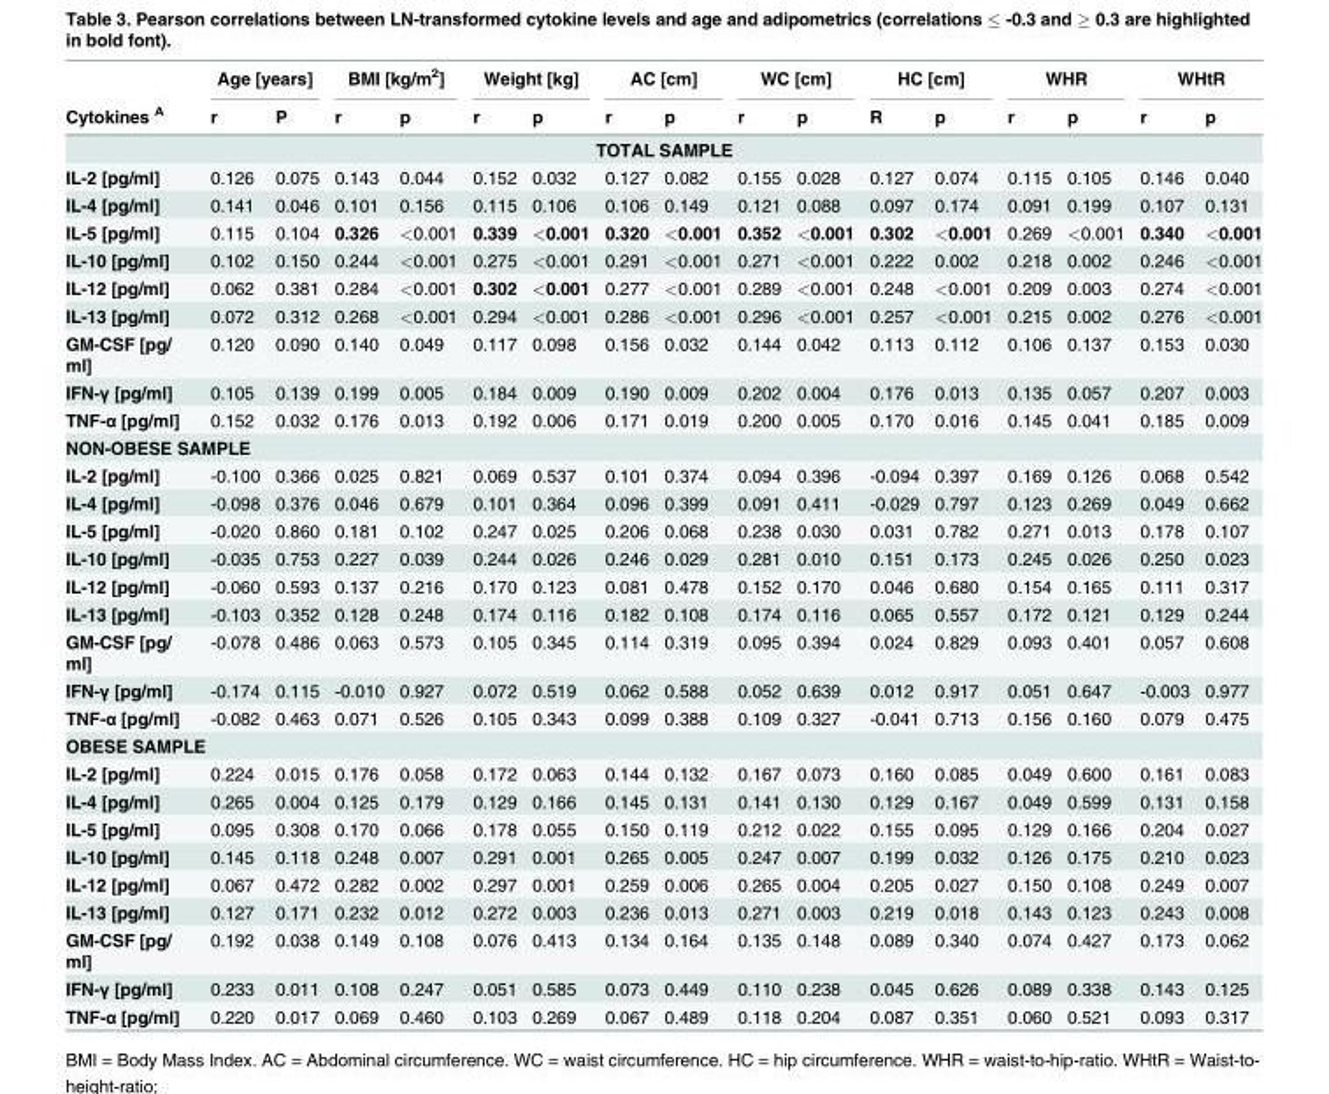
<table><thead><tr><td rowspan="2">Cytokines <sup>A</sup></td><td colspan="2">Age [years]</td><td colspan="2">BMI [kg/m<sup>2</sup>]</td><td colspan="2">Weight [kg]</td><td colspan="2">AC [cm]</td><td colspan="2">WC [cm]</td><td colspan="2">HC [cm]</td><td colspan="2">WHR</td><td colspan="2">WHtR</td></tr><tr><td>r</td><td>P</td><td>r</td><td>p</td><td>r</td><td>p</td><td>r</td><td>p</td><td>r</td><td>p</td><td>R</td><td>p</td><td>r</td><td>p</td><td>r</td><td>p</td></tr></thead><tbody><tr><td colspan="17">TOTAL SAMPLE</td></tr><tr><td>IL-2 [pg/ml]</td><td>0.126</td><td>0.075</td><td>0.143</td><td>0.044</td><td>0.152</td><td>0.032</td><td>0.127</td><td>0.082</td><td>0.155</td><td>0.028</td><td>0.127</td><td>0.074</td><td>0.115</td><td>0.105</td><td>0.146</td><td>0.040</td></tr><tr><td>IL-4 [pg/ml]</td><td>0.141</td><td>0.046</td><td>0.101</td><td>0.156</td><td>0.115</td><td>0.106</td><td>0.106</td><td>0.149</td><td>0.121</td><td>0.088</td><td>0.097</td><td>0.174</td><td>0.091</td><td>0.199</td><td>0.107</td><td>0.131</td></tr><tr><td>IL-5 [pg/ml]</td><td>0.115</td><td>0.104</td><td>0.326</td><td>&lt;0.001</td><td>0.339</td><td>&lt;0.001</td><td>0.320</td><td>&lt;0.001</td><td>0.352</td><td>&lt;0.001</td><td>0.302</td><td>&lt;0.001</td><td>0.269</td><td>&lt;0.001</td><td>0.340</td><td>&lt;0.001</td></tr><tr><td>IL-10 [pg/ml]</td><td>0.102</td><td>0.150</td><td>0.244</td><td>&lt;0.001</td><td>0.275</td><td>&lt;0.001</td><td>0.291</td><td>&lt;0.001</td><td>0.271</td><td>&lt;0.001</td><td>0.222</td><td>0.002</td><td>0.218</td><td>0.002</td><td>0.246</td><td>&lt;0.001</td></tr><tr><td>IL-12 [pg/ml]</td><td>0.062</td><td>0.381</td><td>0.284</td><td>&lt;0.001</td><td>0.302</td><td>&lt;0.001</td><td>0.277</td><td>&lt;0.001</td><td>0.289</td><td>&lt;0.001</td><td>0.248</td><td>&lt;0.001</td><td>0.209</td><td>0.003</td><td>0.274</td><td>&lt;0.001</td></tr><tr><td>IL-13 [pg/ml]</td><td>0.072</td><td>0.312</td><td>0.268</td><td>&lt;0.001</td><td>0.294</td><td>&lt;0.001</td><td>0.286</td><td>&lt;0.001</td><td>0.296</td><td>&lt;0.001</td><td>0.257</td><td>&lt;0.001</td><td>0.215</td><td>0.002</td><td>0.276</td><td>&lt;0.001</td></tr><tr><td>GM-CSF [pg/ ml]</td><td>0.120</td><td>0.090</td><td>0.140</td><td>0.049</td><td>0.117</td><td>0.098</td><td>0.156</td><td>0.032</td><td>0.144</td><td>0.042</td><td>0.113</td><td>0.112</td><td>0.106</td><td>0.137</td><td>0.153</td><td>0.030</td></tr><tr><td>IFN-γ [pg/ml]</td><td>0.105</td><td>0.139</td><td>0.199</td><td>0.005</td><td>0.184</td><td>0.009</td><td>0.190</td><td>0.009</td><td>0.202</td><td>0.004</td><td>0.176</td><td>0.013</td><td>0.135</td><td>0.057</td><td>0.207</td><td>0.003</td></tr><tr><td>TNF-α [pg/ml]</td><td>0.152</td><td>0.032</td><td>0.176</td><td>0.013</td><td>0.192</td><td>0.006</td><td>0.171</td><td>0.019</td><td>0.200</td><td>0.005</td><td>0.170</td><td>0.016</td><td>0.145</td><td>0.041</td><td>0.185</td><td>0.009</td></tr><tr><td colspan="17">NON-OBESE SAMPLE</td></tr><tr><td>IL-2 [pg/ml]</td><td>-0.100</td><td>0.366</td><td>0.025</td><td>0.821</td><td>0.069</td><td>0.537</td><td>0.101</td><td>0.374</td><td>0.094</td><td>0.396</td><td>-0.094</td><td>0.397</td><td>0.169</td><td>0.126</td><td>0.068</td><td>0.542</td></tr><tr><td>IL-4 [pg/ml]</td><td>-0.098</td><td>0.376</td><td>0.046</td><td>0.679</td><td>0.101</td><td>0.364</td><td>0.096</td><td>0.399</td><td>0.091</td><td>0.411</td><td>-0.029</td><td>0.797</td><td>0.123</td><td>0.269</td><td>0.049</td><td>0.662</td></tr><tr><td>IL-5 [pg/ml]</td><td>-0.020</td><td>0.860</td><td>0.181</td><td>0.102</td><td>0.247</td><td>0.025</td><td>0.206</td><td>0.068</td><td>0.238</td><td>0.030</td><td>0.031</td><td>0.782</td><td>0.271</td><td>0.013</td><td>0.178</td><td>0.107</td></tr><tr><td>IL-10 [pg/ml]</td><td>-0.035</td><td>0.753</td><td>0.227</td><td>0.039</td><td>0.244</td><td>0.026</td><td>0.246</td><td>0.029</td><td>0.281</td><td>0.010</td><td>0.151</td><td>0.173</td><td>0.245</td><td>0.026</td><td>0.250</td><td>0.023</td></tr><tr><td>IL-12 [pg/ml]</td><td>-0.060</td><td>0.593</td><td>0.137</td><td>0.216</td><td>0.170</td><td>0.123</td><td>0.081</td><td>0.478</td><td>0.152</td><td>0.170</td><td>0.046</td><td>0.680</td><td>0.154</td><td>0.165</td><td>0.111</td><td>0.317</td></tr><tr><td>IL-13 [pg/ml]</td><td>-0.103</td><td>0.352</td><td>0.128</td><td>0.248</td><td>0.174</td><td>0.116</td><td>0.182</td><td>0.108</td><td>0.174</td><td>0.116</td><td>0.065</td><td>0.557</td><td>0.172</td><td>0.121</td><td>0.129</td><td>0.244</td></tr><tr><td>GM-CSF [pg/ ml]</td><td>-0.078</td><td>0.486</td><td>0.063</td><td>0.573</td><td>0.105</td><td>0.345</td><td>0.114</td><td>0.319</td><td>0.095</td><td>0.394</td><td>0.024</td><td>0.829</td><td>0.093</td><td>0.401</td><td>0.057</td><td>0.608</td></tr><tr><td>IFN-γ [pg/ml]</td><td>-0.174</td><td>0.115</td><td>-0.010</td><td>0.927</td><td>0.072</td><td>0.519</td><td>0.062</td><td>0.588</td><td>0.052</td><td>0.639</td><td>0.012</td><td>0.917</td><td>0.051</td><td>0.647</td><td>-0.003</td><td>0.977</td></tr><tr><td>TNF-α [pg/ml]</td><td>-0.082</td><td>0.463</td><td>0.071</td><td>0.526</td><td>0.105</td><td>0.343</td><td>0.099</td><td>0.388</td><td>0.109</td><td>0.327</td><td>-0.041</td><td>0.713</td><td>0.156</td><td>0.160</td><td>0.079</td><td>0.475</td></tr><tr><td colspan="17">OBESE SAMPLE</td></tr><tr><td>IL-2 [pg/ml]</td><td>0.224</td><td>0.015</td><td>0.176</td><td>0.058</td><td>0.172</td><td>0.063</td><td>0.144</td><td>0.132</td><td>0.167</td><td>0.073</td><td>0.160</td><td>0.085</td><td>0.049</td><td>0.600</td><td>0.161</td><td>0.083</td></tr><tr><td>IL-4 [pg/ml]</td><td>0.265</td><td>0.004</td><td>0.125</td><td>0.179</td><td>0.129</td><td>0.166</td><td>0.145</td><td>0.131</td><td>0.141</td><td>0.130</td><td>0.129</td><td>0.167</td><td>0.049</td><td>0.599</td><td>0.131</td><td>0.158</td></tr><tr><td>IL-5 [pg/ml]</td><td>0.095</td><td>0.308</td><td>0.170</td><td>0.066</td><td>0.178</td><td>0.055</td><td>0.150</td><td>0.119</td><td>0.212</td><td>0.022</td><td>0.155</td><td>0.095</td><td>0.129</td><td>0.166</td><td>0.204</td><td>0.027</td></tr><tr><td>IL-10 [pg/ml]</td><td>0.145</td><td>0.118</td><td>0.248</td><td>0.007</td><td>0.291</td><td>0.001</td><td>0.265</td><td>0.005</td><td>0.247</td><td>0.007</td><td>0.199</td><td>0.032</td><td>0.126</td><td>0.175</td><td>0.210</td><td>0.023</td></tr><tr><td>IL-12 [pg/ml]</td><td>0.067</td><td>0.472</td><td>0.282</td><td>0.002</td><td>0.297</td><td>0.001</td><td>0.259</td><td>0.006</td><td>0.265</td><td>0.004</td><td>0.205</td><td>0.027</td><td>0.150</td><td>0.108</td><td>0.249</td><td>0.007</td></tr><tr><td>IL-13 [pg/ml]</td><td>0.127</td><td>0.171</td><td>0.232</td><td>0.012</td><td>0.272</td><td>0.003</td><td>0.236</td><td>0.013</td><td>0.271</td><td>0.003</td><td>0.219</td><td>0.018</td><td>0.143</td><td>0.123</td><td>0.243</td><td>0.008</td></tr><tr><td>GM-CSF [pg/ ml]</td><td>0.192</td><td>0.038</td><td>0.149</td><td>0.108</td><td>0.076</td><td>0.413</td><td>0.134</td><td>0.164</td><td>0.135</td><td>0.148</td><td>0.089</td><td>0.340</td><td>0.074</td><td>0.427</td><td>0.173</td><td>0.062</td></tr><tr><td>IFN-γ [pg/ml]</td><td>0.233</td><td>0.011</td><td>0.108</td><td>0.247</td><td>0.051</td><td>0.585</td><td>0.073</td><td>0.449</td><td>0.110</td><td>0.238</td><td>0.045</td><td>0.626</td><td>0.089</td><td>0.338</td><td>0.143</td><td>0.125</td></tr><tr><td>TNF-α [pg/ml]</td><td>0.220</td><td>0.017</td><td>0.069</td><td>0.460</td><td>0.103</td><td>0.269</td><td>0.067</td><td>0.489</td><td>0.118</td><td>0.204</td><td>0.087</td><td>0.351</td><td>0.060</td><td>0.521</td><td>0.093</td><td>0.317</td></tr></tbody></table>